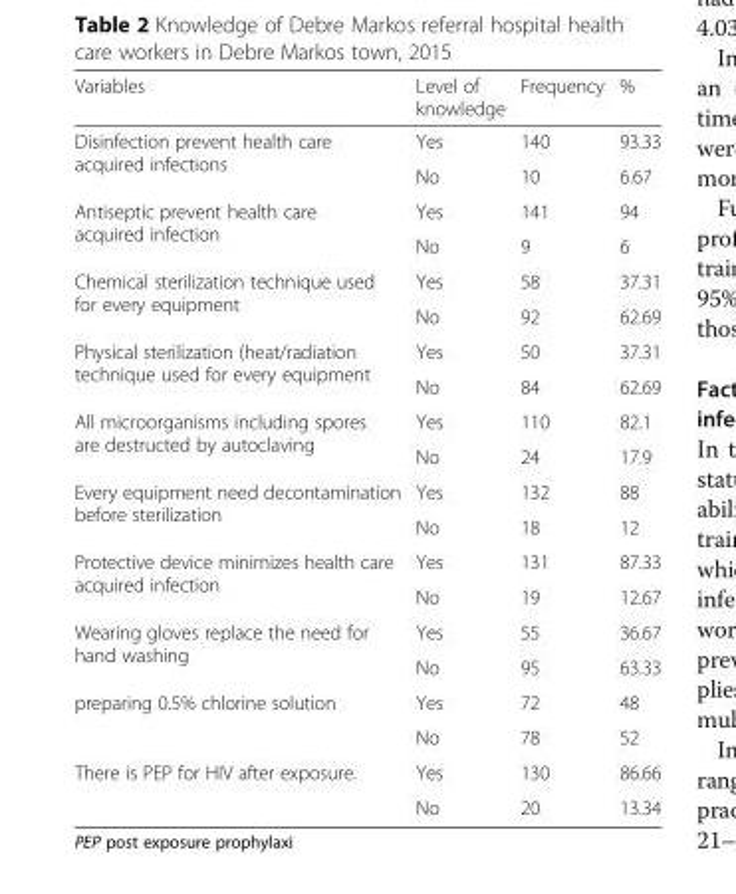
<table><thead><tr><td>Variables</td><td>Level of knowledge</td><td>Frequency</td><td>%</td></tr></thead><tbody><tr><td rowspan="2">Disinfection prevent health care acquired infections</td><td>Yes</td><td>140</td><td>93.33</td></tr><tr><td>No</td><td>10</td><td>6.67</td></tr><tr><td rowspan="2">Antiseptic prevent health care acquired infection</td><td>Yes</td><td>141</td><td>94</td></tr><tr><td>No</td><td>9</td><td>6</td></tr><tr><td rowspan="2">Chemical sterilization technique used for every equipment</td><td>Yes</td><td>58</td><td>37.31</td></tr><tr><td>No</td><td>92</td><td>62.69</td></tr><tr><td rowspan="2">Physical sterilization (heat/radiation technique used for every equipment</td><td>Yes</td><td>50</td><td>37.31</td></tr><tr><td>No</td><td>84</td><td>62.69</td></tr><tr><td rowspan="2">All microorganisms including spores are destructed by autoclaving</td><td>Yes</td><td>110</td><td>82.1</td></tr><tr><td>No</td><td>24</td><td>17.9</td></tr><tr><td rowspan="2">Every equipment need decontamination before sterilization</td><td>Yes</td><td>132</td><td>88</td></tr><tr><td>No</td><td>18</td><td>12</td></tr><tr><td rowspan="2">Protective device minimizes health care acquired infection</td><td>Yes</td><td>131</td><td>87.33</td></tr><tr><td>No</td><td>19</td><td>12.67</td></tr><tr><td rowspan="2">Wearing gloves replace the need for hand washing</td><td>Yes</td><td>55</td><td>36.67</td></tr><tr><td>No</td><td>95</td><td>63.33</td></tr><tr><td rowspan="2">preparing 0.5% chlorine solution</td><td>Yes</td><td>72</td><td>48</td></tr><tr><td>No</td><td>78</td><td>52</td></tr><tr><td rowspan="2">There is PEP for HIV after exposure.</td><td>Yes</td><td>130</td><td>86.66</td></tr><tr><td>No</td><td>20</td><td>13.34</td></tr></tbody></table>